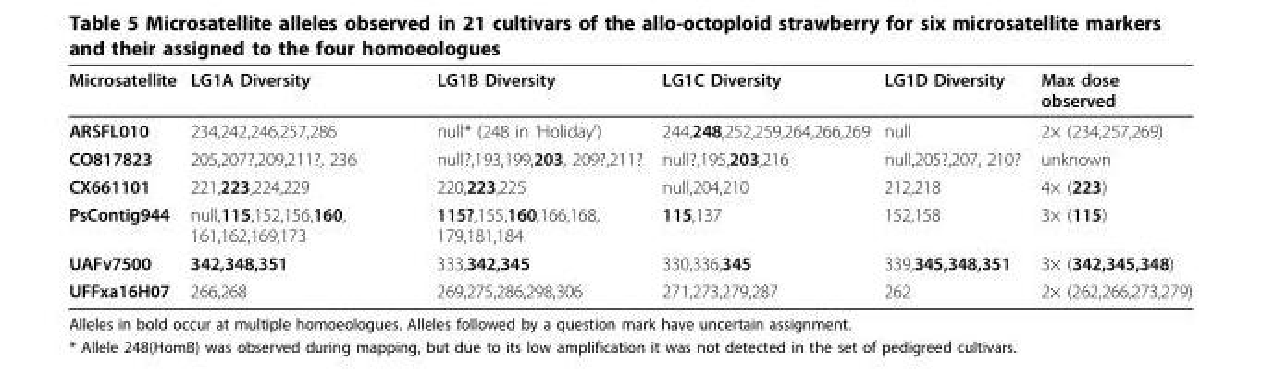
<table><thead><tr><td>Microsatellite</td><td>LG1A Diversity</td><td>LG1B Diversity</td><td>LG1C Diversity</td><td>LG1D Diversity</td><td>Max dose observed</td></tr></thead><tbody><tr><td>ARSFL010</td><td>234,242,246,257,286</td><td>null* (248 in ‘Holiday’)</td><td>244,248,252,259,264,266,269</td><td>null</td><td>2× (234,257,269)</td></tr><tr><td>CO817823</td><td>205,207?,209,211?, 236</td><td>null?,193,199,203, 209?,211?</td><td>null?,195,203,216</td><td>null,205?,207, 210?</td><td>unknown</td></tr><tr><td>CX661101</td><td>221,223,224,229</td><td>220,223,225</td><td>null,204,210</td><td>212,218</td><td>4× (223)</td></tr><tr><td>PsContig944</td><td>null,115,152,156,160, 161,162,169,173</td><td>115?,155,160,166,168, 179,181,184</td><td>115,137</td><td>152,158</td><td>3× (115)</td></tr><tr><td>UAFv7500</td><td>342,348,351</td><td>333,342,345</td><td>330,336,345</td><td>339,345,348,351</td><td>3× (342,345,348)</td></tr><tr><td>UFFxa16H07</td><td>266,268</td><td>269,275,286,298,306</td><td>271,273,279,287</td><td>262</td><td>2× (262,266,273,279)</td></tr></tbody></table>